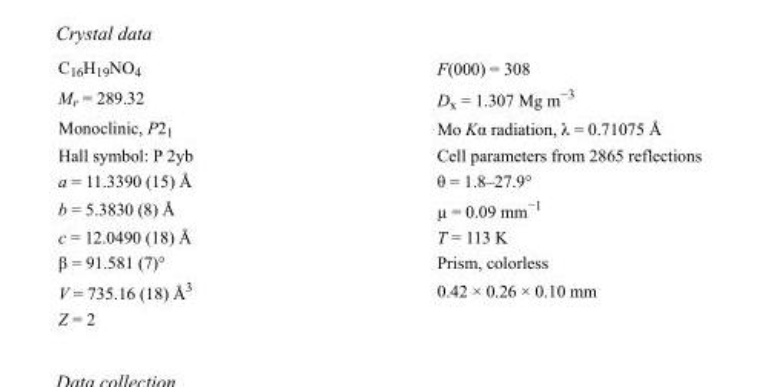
<table><tbody><tr><td>C<sub>16</sub>H<sub>19</sub>NO<sub>4</sub></td><td>F(000) = 308</td></tr><tr><td>M<sub>r</sub> = 289.32</td><td>D<sub>x</sub> = 1.307 Mg m<sup>−3</sup></td></tr><tr><td>Monoclinic, P2<sub>1</sub></td><td>Mo Kα radiation, λ = 0.71075 Å</td></tr><tr><td>Hall symbol: P 2yb</td><td>Cell parameters from 2865 reflections</td></tr><tr><td>a = 11.3390 (15) Å</td><td>θ = 1.8–27.9°</td></tr><tr><td>b = 5.3830 (8) Å</td><td>µ = 0.09 mm<sup>−1</sup></td></tr><tr><td>c = 12.0490 (18) Å</td><td>T = 113 K</td></tr><tr><td>β = 91.581 (7)°</td><td>Prism, colorless</td></tr><tr><td>V = 735.16 (18) Å<sup>3</sup></td><td>0.42 × 0.26 × 0.10 mm</td></tr><tr><td>Z = 2</td><td></td></tr></tbody></table>